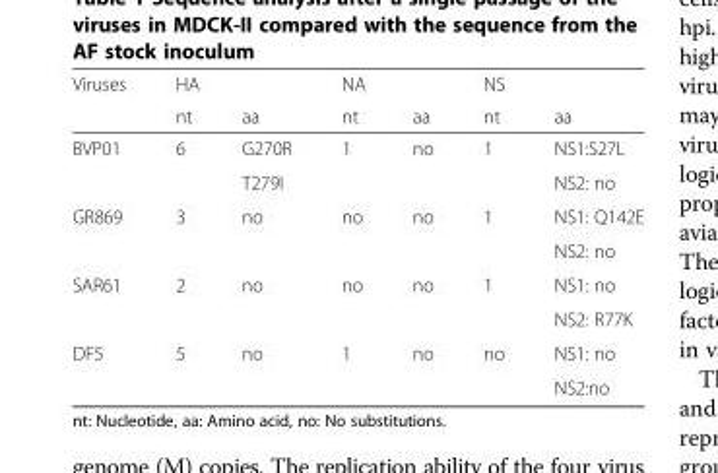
<table><thead><tr><td rowspan="2">Viruses</td><td colspan="2">HA</td><td colspan="2">NA</td><td colspan="2">NS</td></tr><tr><td>nt</td><td>aa</td><td>nt</td><td>aa</td><td>nt</td><td>aa</td></tr></thead><tbody><tr><td rowspan="2">BVP01</td><td rowspan="2">6</td><td>G270R</td><td rowspan="2">1</td><td rowspan="2">no</td><td rowspan="2">1</td><td>NS1:S27L</td></tr><tr><td>T279I</td><td>NS2: no</td></tr><tr><td rowspan="2">GR869</td><td rowspan="2">3</td><td rowspan="2">no</td><td rowspan="2">no</td><td rowspan="2">no</td><td rowspan="2">1</td><td>NS1: Q142E</td></tr><tr><td>NS2: no</td></tr><tr><td rowspan="2">SAR61</td><td rowspan="2">2</td><td rowspan="2">no</td><td rowspan="2">no</td><td rowspan="2">no</td><td rowspan="2">1</td><td>NS1: no</td></tr><tr><td>NS2: R77K</td></tr><tr><td rowspan="2">DF5</td><td rowspan="2">5</td><td rowspan="2">no</td><td rowspan="2">1</td><td rowspan="2">no</td><td rowspan="2">no</td><td>NS1: no</td></tr><tr><td>NS2:no</td></tr></tbody></table>